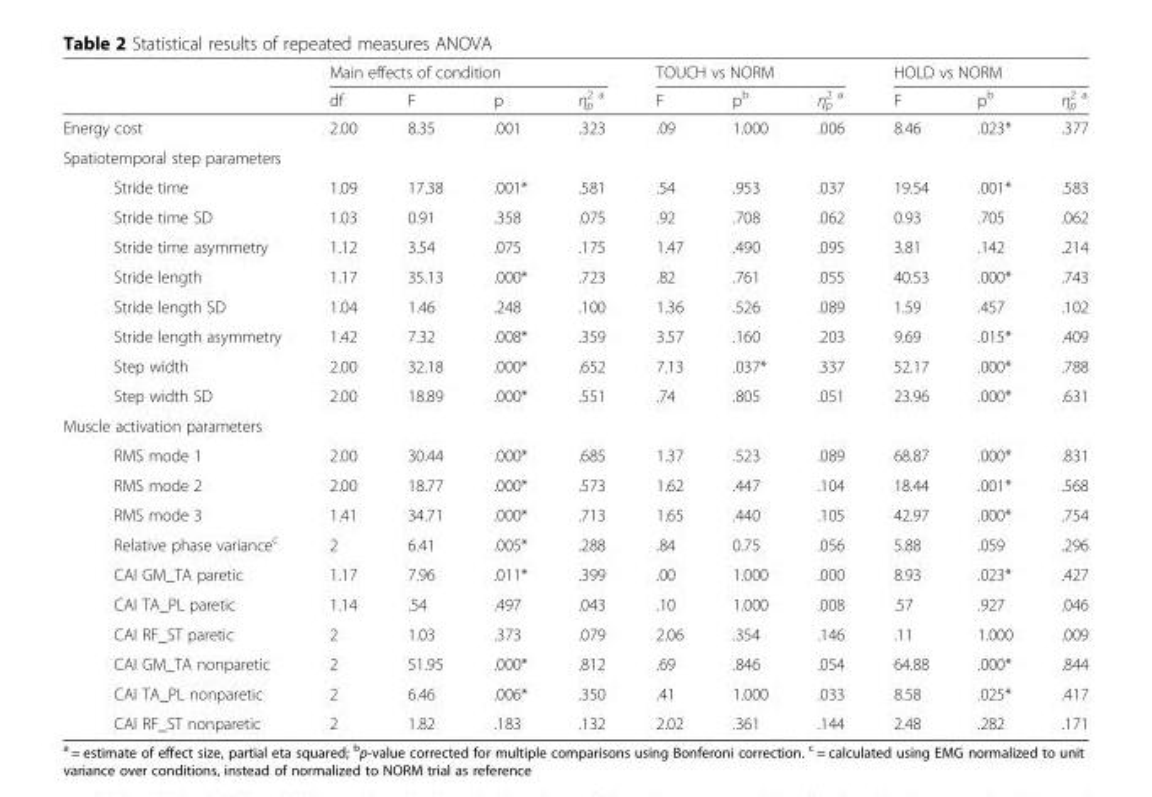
<table><thead><tr><td rowspan="2"></td><td colspan="4">Main effects of condition</td><td colspan="3">TOUCH vs NORM</td><td colspan="3">HOLD vs NORM</td></tr><tr><td>df</td><td>F</td><td>p</td><td>η<sub>p</sub> <sup>2 a</sup></td><td>F</td><td>p<sup>b</sup></td><td>η<sub>p</sub> <sup>2 a</sup></td><td>F</td><td>p<sup>b</sup></td><td>η<sub>p</sub> <sup>2 a</sup></td></tr></thead><tbody><tr><td>Energy cost</td><td>2.00</td><td>8.35</td><td>.001</td><td>.323</td><td>.09</td><td>1.000</td><td>.006</td><td>8.46</td><td>.023*</td><td>.377</td></tr><tr><td colspan="11">Spatiotemporal step parameters</td></tr><tr><td>Stride time</td><td>1.09</td><td>17.38</td><td>.001*</td><td>.581</td><td>.54</td><td>.953</td><td>.037</td><td>19.54</td><td>.001*</td><td>.583</td></tr><tr><td>Stride time SD</td><td>1.03</td><td>0.91</td><td>.358</td><td>.075</td><td>.92</td><td>.708</td><td>.062</td><td>0.93</td><td>.705</td><td>.062</td></tr><tr><td>Stride time asymmetry</td><td>1.12</td><td>3.54</td><td>.075</td><td>.175</td><td>1.47</td><td>.490</td><td>.095</td><td>3.81</td><td>.142</td><td>.214</td></tr><tr><td>Stride length</td><td>1.17</td><td>35.13</td><td>.000*</td><td>.723</td><td>.82</td><td>.761</td><td>.055</td><td>40.53</td><td>.000*</td><td>.743</td></tr><tr><td>Stride length SD</td><td>1.04</td><td>1.46</td><td>.248</td><td>.100</td><td>1.36</td><td>.526</td><td>.089</td><td>1.59</td><td>.457</td><td>.102</td></tr><tr><td>Stride length asymmetry</td><td>1.42</td><td>7.32</td><td>.008*</td><td>.359</td><td>3.57</td><td>.160</td><td>.203</td><td>9.69</td><td>.015*</td><td>.409</td></tr><tr><td>Step width</td><td>2.00</td><td>32.18</td><td>.000*</td><td>.652</td><td>7.13</td><td>.037*</td><td>.337</td><td>52.17</td><td>.000*</td><td>.788</td></tr><tr><td>Step width SD</td><td>2.00</td><td>18.89</td><td>.000*</td><td>.551</td><td>.74</td><td>.805</td><td>.051</td><td>23.96</td><td>.000*</td><td>.631</td></tr><tr><td colspan="11">Muscle activation parameters</td></tr><tr><td>RMS mode 1</td><td>2.00</td><td>30.44</td><td>.000*</td><td>.685</td><td>1.37</td><td>.523</td><td>.089</td><td>68.87</td><td>.000*</td><td>.831</td></tr><tr><td>RMS mode 2</td><td>2.00</td><td>18.77</td><td>.000*</td><td>.573</td><td>1.62</td><td>.447</td><td>.104</td><td>18.44</td><td>.001*</td><td>.568</td></tr><tr><td>RMS mode 3</td><td>1.41</td><td>34.71</td><td>.000*</td><td>.713</td><td>1.65</td><td>.440</td><td>.105</td><td>42.97</td><td>.000*</td><td>.754</td></tr><tr><td>Relative phase variance<sup>c</sup></td><td>2</td><td>6.41</td><td>.005*</td><td>.288</td><td>.84</td><td>0.75</td><td>.056</td><td>5.88</td><td>.059</td><td>.296</td></tr><tr><td>CAI GM_TA paretic</td><td>1.17</td><td>7.96</td><td>.011*</td><td>.399</td><td>.00</td><td>1.000</td><td>.000</td><td>8.93</td><td>.023*</td><td>.427</td></tr><tr><td>CAI TA_PL paretic</td><td>1.14</td><td>.54</td><td>.497</td><td>.043</td><td>.10</td><td>1.000</td><td>.008</td><td>.57</td><td>.927</td><td>.046</td></tr><tr><td>CAI RF_ST paretic</td><td>2</td><td>1.03</td><td>.373</td><td>.079</td><td>2.06</td><td>.354</td><td>.146</td><td>.11</td><td>1.000</td><td>.009</td></tr><tr><td>CAI GM_TA nonparetic</td><td>2</td><td>51.95</td><td>.000*</td><td>.812</td><td>.69</td><td>.846</td><td>.054</td><td>64.88</td><td>.000*</td><td>.844</td></tr><tr><td>CAI TA_PL nonparetic</td><td>2</td><td>6.46</td><td>.006*</td><td>.350</td><td>.41</td><td>1.000</td><td>.033</td><td>8.58</td><td>.025*</td><td>.417</td></tr><tr><td>CAI RF_ST nonparetic</td><td>2</td><td>1.82</td><td>.183</td><td>.132</td><td>2.02</td><td>.361</td><td>.144</td><td>2.48</td><td>.282</td><td>.171</td></tr></tbody></table>